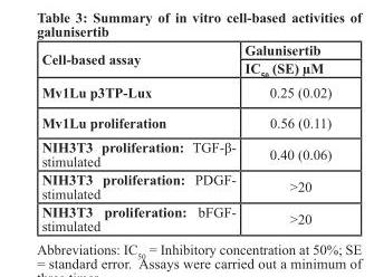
<table><thead><tr><td rowspan="2">Cell-based assay</td><td rowspan="2">Galunisertib IC<sub>50</sub> (SE) µM</td></tr><tr></tr></thead><tbody><tr><td>Mv1Lu p3TP-Lux</td><td>0.25 (0.02)</td></tr><tr><td>Mv1Lu proliferation</td><td>0.56 (0.11)</td></tr><tr><td>NIH3T3 proliferation: TGF-β- stimulated</td><td>0.40 (0.06)</td></tr><tr><td>NIH3T3 proliferation: PDGF- stimulated</td><td>&gt;20</td></tr><tr><td>NIH3T3 proliferation: bFGF- stimulated</td><td>&gt;20</td></tr></tbody></table>